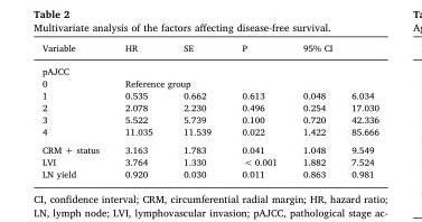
<table><thead><tr><td>Variable</td><td>HR</td><td>SE</td><td>P</td><td colspan="2">95% CI</td></tr><tr><td colspan="6">pAJCC</td></tr><tr><td>0</td><td colspan="2">Reference group</td><td></td><td></td><td></td></tr></thead><tbody><tr><td>1</td><td>0.535</td><td>0.662</td><td>0.613</td><td>0.048</td><td>6.034</td></tr><tr><td>2</td><td>2.078</td><td>2.230</td><td>0.496</td><td>0.254</td><td>17.030</td></tr><tr><td>3</td><td>5.522</td><td>5.739</td><td>0.100</td><td>0.720</td><td>42.336</td></tr><tr><td>4</td><td>11.035</td><td>11.539</td><td>0.022</td><td>1.422</td><td>85.666</td></tr><tr><td>CRM + status</td><td>3.163</td><td>1.783</td><td>0.041</td><td>1.048</td><td>9.549</td></tr><tr><td>LVI</td><td>3.764</td><td>1.330</td><td>&lt; 0.001</td><td>1.882</td><td>7.524</td></tr><tr><td>LN yield</td><td>0.920</td><td>0.030</td><td>0.011</td><td>0.863</td><td>0.981</td></tr></tbody></table>